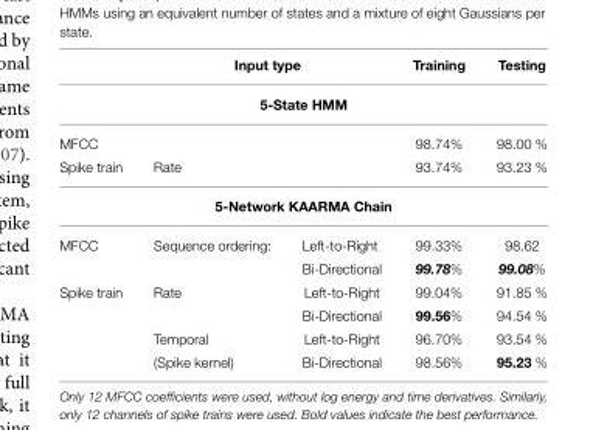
<table><thead><tr><td></td><td colspan="2">Input type</td><td>Training</td><td>Testing</td></tr><tr><td colspan="5">5-State HMM</td></tr><tr><td rowspan="2">MFCC Spike train</td><td colspan="2"></td><td rowspan="2">98.74% 93.74%</td><td rowspan="2">98.00 % 93.23 %</td></tr><tr><td>Rate</td><td></td></tr></thead><tbody><tr><td colspan="5">5-Network KAARMA Chain</td></tr><tr><td rowspan="2">MFCC</td><td>Sequence ordering:</td><td>Left-to-Right</td><td>99.33%</td><td>98.62</td></tr><tr><td></td><td>Bi-Directional</td><td>99.78%</td><td>99.08%</td></tr><tr><td rowspan="4">Spike train</td><td>Rate</td><td>Left-to-Right</td><td>99.04%</td><td>91.85 %</td></tr><tr><td></td><td>Bi-Directional</td><td>99.56%</td><td>94.54 %</td></tr><tr><td>Temporal</td><td>Left-to-Right</td><td>96.70%</td><td>93.54 %</td></tr><tr><td>(Spike kernel)</td><td>Bi-Directional</td><td>98.56%</td><td>95.23 %</td></tr></tbody></table>